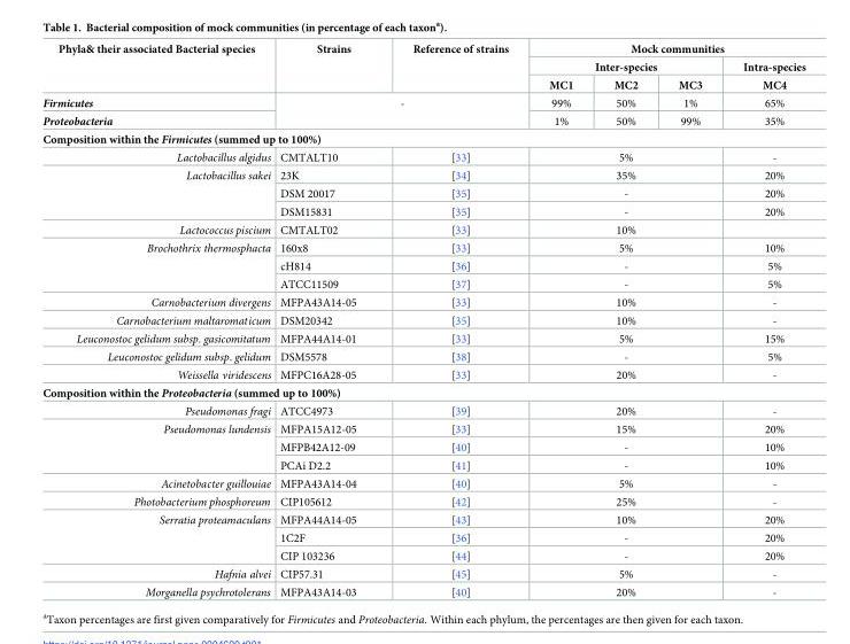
<table><thead><tr><td rowspan="3">Phyla&amp; their associated Bacterial species</td><td rowspan="3">Strains</td><td rowspan="3">Reference of strains</td><td colspan="4">Mock communities</td></tr><tr><td colspan="3">Inter-species</td><td rowspan="2">Intra-species MC4</td></tr><tr><td>MC1</td><td>MC2</td><td>MC3</td></tr></thead><tbody><tr><td>Firmicutes</td><td rowspan="2" colspan="2">-</td><td>99%</td><td>50%</td><td>1%</td><td>65%</td></tr><tr><td>Proteobacteria</td><td>1%</td><td>50%</td><td>99%</td><td>35%</td></tr><tr><td colspan="7">Composition within the Firmicutes (summed up to 100%)</td></tr><tr><td>Lactobacillus algidus</td><td>CMTALT10</td><td>[33]</td><td colspan="3">5%</td><td>-</td></tr><tr><td rowspan="3">Lactobacillus sakei</td><td>23K</td><td>[34]</td><td colspan="3">35%</td><td>20%</td></tr><tr><td>DSM 20017</td><td>[35]</td><td colspan="3">-</td><td>20%</td></tr><tr><td>DSM15831</td><td>[35]</td><td colspan="3">-</td><td>20%</td></tr><tr><td>Lactococcus piscium</td><td>CMTALT02</td><td>[33]</td><td colspan="3">10%</td><td></td></tr><tr><td rowspan="3">Brochothrix thermosphacta</td><td>160x8</td><td>[33]</td><td colspan="3">5%</td><td>10%</td></tr><tr><td>cH814</td><td>[36]</td><td colspan="3">-</td><td>5%</td></tr><tr><td>ATCC11509</td><td>[37]</td><td colspan="3">-</td><td>5%</td></tr><tr><td>Carnobacterium divergens</td><td>MFPA43A14-05</td><td>[33]</td><td colspan="3">10%</td><td>-</td></tr><tr><td>Carnobacterium maltaromaticum</td><td>DSM20342</td><td>[35]</td><td colspan="3">10%</td><td>-</td></tr><tr><td>Leuconostoc gelidum subsp. gasicomitatum</td><td>MFPA44A14-01</td><td>[33]</td><td colspan="3">5%</td><td>15%</td></tr><tr><td>Leuconostoc gelidum subsp. gelidum</td><td>DSM5578</td><td>[38]</td><td colspan="3">-</td><td>5%</td></tr><tr><td>Weissella viridescens</td><td>MFPC16A28-05</td><td>[33]</td><td colspan="3">20%</td><td>-</td></tr><tr><td colspan="7">Composition within the Proteobacteria (summed up to 100%)</td></tr><tr><td>Pseudomonas fragi</td><td>ATCC4973</td><td>[39]</td><td colspan="3">20%</td><td>-</td></tr><tr><td rowspan="3">Pseudomonas lundensis</td><td>MFPA15A12-05</td><td>[33]</td><td colspan="3">15%</td><td>20%</td></tr><tr><td>MFPB42A12-09</td><td>[40]</td><td colspan="3">-</td><td>10%</td></tr><tr><td>PCAi D2.2</td><td>[41]</td><td colspan="3">-</td><td>10%</td></tr><tr><td>Acinetobacter guillouiae</td><td>MFPA43A14-04</td><td>[40]</td><td colspan="3">5%</td><td>-</td></tr><tr><td>Photobacterium phosphoreum</td><td>CIP105612</td><td>[42]</td><td colspan="3">25%</td><td>-</td></tr><tr><td rowspan="3">Serratia proteamaculans</td><td>MFPA44A14-05</td><td>[43]</td><td colspan="3">10%</td><td>20%</td></tr><tr><td>1C2F</td><td>[36]</td><td colspan="3">-</td><td>20%</td></tr><tr><td>CIP 103236</td><td>[44]</td><td colspan="3">-</td><td>20%</td></tr><tr><td>Hafnia alvei</td><td>CIP57.31</td><td>[45]</td><td colspan="3">5%</td><td>-</td></tr><tr><td>Morganella psychrotolerans</td><td>MFPA43A14-03</td><td>[40]</td><td colspan="3">20%</td><td>-</td></tr></tbody></table>